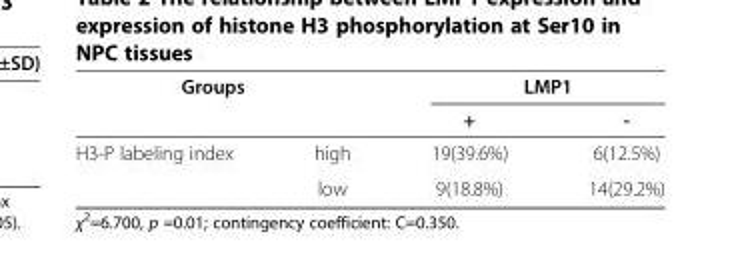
<table><thead><tr><td colspan="2">Groups</td><td colspan="2">LMP1</td></tr><tr><td></td><td></td><td>+</td><td>-</td></tr></thead><tbody><tr><td rowspan="2">H3-P labeling index</td><td>high</td><td>19(39.6%)</td><td>6(12.5%)</td></tr><tr><td>low</td><td>9(18.8%)</td><td>14(29.2%)</td></tr></tbody></table>